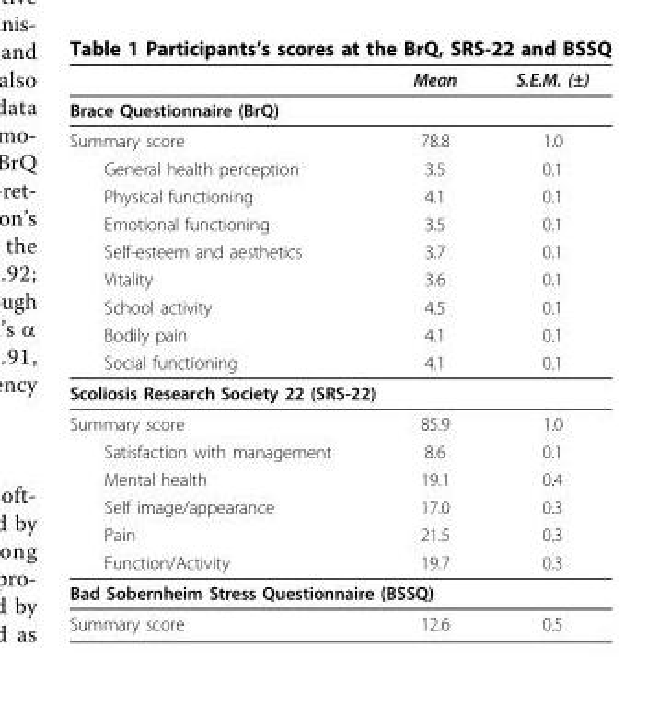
<table><thead><tr><td></td><td>Mean</td><td>S.E.M. (±)</td></tr></thead><tbody><tr><td colspan="3">Brace Questionnaire (BrQ)</td></tr><tr><td>Summary score</td><td>78.8</td><td>1.0</td></tr><tr><td>General health perception</td><td>3.5</td><td>0.1</td></tr><tr><td>Physical functioning</td><td>4.1</td><td>0.1</td></tr><tr><td>Emotional functioning</td><td>3.5</td><td>0.1</td></tr><tr><td>Self-esteem and aesthetics</td><td>3.7</td><td>0.1</td></tr><tr><td>Vitality</td><td>3.6</td><td>0.1</td></tr><tr><td>School activity</td><td>4.5</td><td>0.1</td></tr><tr><td>Bodily pain</td><td>4.1</td><td>0.1</td></tr><tr><td>Social functioning</td><td>4.1</td><td>0.1</td></tr><tr><td colspan="3">Scoliosis Research Society 22 (SRS-22)</td></tr><tr><td>Summary score</td><td>85.9</td><td>1.0</td></tr><tr><td>Satisfaction with management</td><td>8.6</td><td>0.1</td></tr><tr><td>Mental health</td><td>19.1</td><td>0.4</td></tr><tr><td>Self image/appearance</td><td>17.0</td><td>0.3</td></tr><tr><td>Pain</td><td>21.5</td><td>0.3</td></tr><tr><td>Function/Activity</td><td>19.7</td><td>0.3</td></tr><tr><td colspan="3">Bad Sobernheim Stress Questionnaire (BSSQ)</td></tr><tr><td>Summary score</td><td>12.6</td><td>0.5</td></tr></tbody></table>